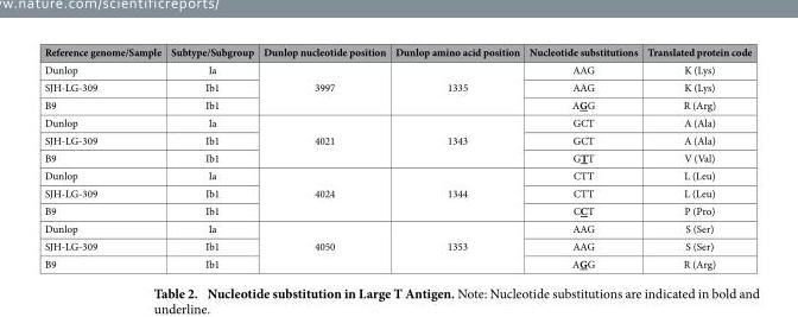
<table><thead><tr><td>Reference genome/Sample</td><td>Subtype/Subgroup</td><td>Dunlop nucleotide position</td><td>Dunlop amino acid position</td><td>Nucleotide substitutions</td><td>Translated protein code</td></tr></thead><tbody><tr><td>Dunlop</td><td>Ia</td><td rowspan="3">3997</td><td rowspan="3">1335</td><td>AAG</td><td>K (Lys)</td></tr><tr><td>SJH-LG-309</td><td>Ib1</td><td>AAG</td><td>K (Lys)</td></tr><tr><td>B9</td><td>Ib1</td><td>AGG</td><td>R (Arg)</td></tr><tr><td>Dunlop</td><td>Ia</td><td rowspan="3">4021</td><td rowspan="3">1343</td><td>GCT</td><td>A (Ala)</td></tr><tr><td>SJH-LG-309</td><td>Ib1</td><td>GCT</td><td>A (Ala)</td></tr><tr><td>B9</td><td>Ib1</td><td>GTT</td><td>V (Val)</td></tr><tr><td>Dunlop</td><td>Ia</td><td rowspan="3">4024</td><td rowspan="3">1344</td><td>CTT</td><td>L (Leu)</td></tr><tr><td>SJH-LG-309</td><td>Ib1</td><td>CTT</td><td>L (Leu)</td></tr><tr><td>B9</td><td>Ib1</td><td>CCT</td><td>P (Pro)</td></tr><tr><td>Dunlop</td><td>Ia</td><td rowspan="3">4050</td><td rowspan="3">1353</td><td>AAG</td><td>S (Ser)</td></tr><tr><td>SJH-LG-309</td><td>Ib1</td><td>AAG</td><td>S (Ser)</td></tr><tr><td>B9</td><td>Ib1</td><td>AGG</td><td>R (Arg)</td></tr></tbody></table>